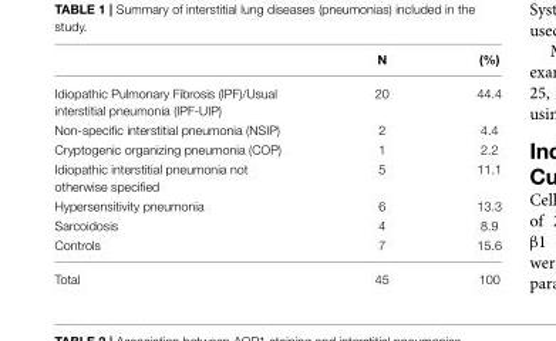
<table><thead><tr><td></td><td>N</td><td>(%)</td></tr></thead><tbody><tr><td>Idiopathic Pulmonary Fibrosis (IPF)/Usual interstitial pneumonia (IPF-UIP)</td><td>20</td><td>44.4</td></tr><tr><td>Non-specific interstitial pneumonia (NSIP)</td><td>2</td><td>4.4</td></tr><tr><td>Cryptogenic organizing pneumonia (COP)</td><td>1</td><td>2.2</td></tr><tr><td>Idiopathic interstitial pneumonia not otherwise specified</td><td>5</td><td>11.1</td></tr><tr><td>Hypersensitivity pneumonia</td><td>6</td><td>13.3</td></tr><tr><td>Sarcoidosis</td><td>4</td><td>8.9</td></tr><tr><td>Controls</td><td>7</td><td>15.6</td></tr><tr><td>Total</td><td>45</td><td>100</td></tr></tbody></table>